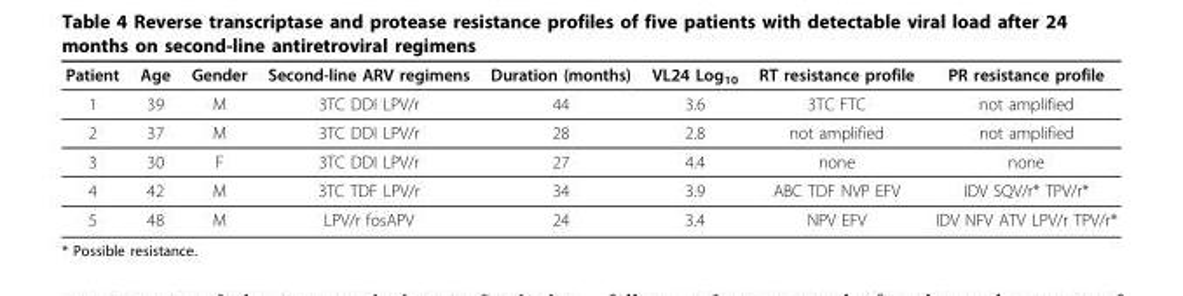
<table><thead><tr><td>Patient</td><td>Age</td><td>Gender</td><td>Second-line ARV regimens</td><td>Duration (months)</td><td>VL24 Log<sub>10</sub></td><td>RT resistance profile</td><td>PR resistance profile</td></tr></thead><tbody><tr><td>1</td><td>39</td><td>M</td><td>3TC DDI LPV/r</td><td>44</td><td>3.6</td><td>3TC FTC</td><td>not amplified</td></tr><tr><td>2</td><td>37</td><td>M</td><td>3TC DDI LPV/r</td><td>28</td><td>2.8</td><td>not amplified</td><td>not amplified</td></tr><tr><td>3</td><td>30</td><td>F</td><td>3TC DDI LPV/r</td><td>27</td><td>4.4</td><td>none</td><td>none</td></tr><tr><td>4</td><td>42</td><td>M</td><td>3TC TDF LPV/r</td><td>34</td><td>3.9</td><td>ABC TDF NVP EFV</td><td>IDV SQV/r* TPV/r*</td></tr><tr><td>5</td><td>48</td><td>M</td><td>LPV/r fosAPV</td><td>24</td><td>3.4</td><td>NPV EFV</td><td>IDV NFV ATV LPV/r TPV/r*</td></tr></tbody></table>